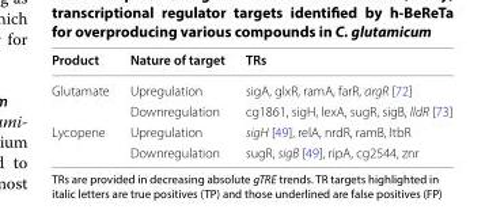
<table><thead><tr><td>Product</td><td>Nature of target</td><td>TRs</td></tr></thead><tbody><tr><td rowspan="2">Glutamate</td><td>Upregulation</td><td>sigA, glxR, ramA, farR, argR [72]</td></tr><tr><td>Downregulation</td><td>cg1861, sigH, lexA, sugR, sigB, lldR [73]</td></tr><tr><td rowspan="2">Lycopene</td><td>Upregulation</td><td>sigH [49], relA, nrdR, ramB, ltbR</td></tr><tr><td>Downregulation</td><td>sugR, sigB [49], ripA, cg2544, znr</td></tr></tbody></table>